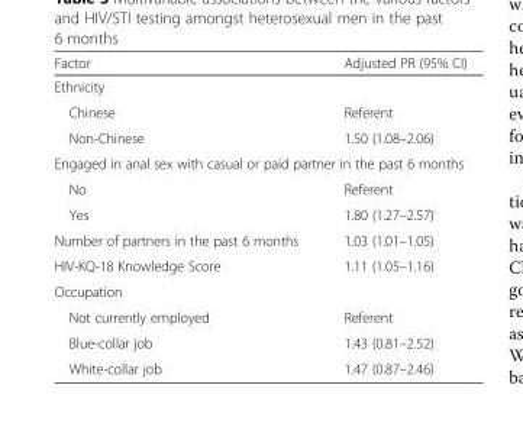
<table><thead><tr><td>Factor</td><td>Adjusted PR (95% CI)</td></tr></thead><tbody><tr><td colspan="2">Ethnicity</td></tr><tr><td>Chinese</td><td>Referent</td></tr><tr><td>Non-Chinese</td><td>1.50 (1.08–2.06)</td></tr><tr><td colspan="2">Engaged in anal sex with casual or paid partner in the past 6 months</td></tr><tr><td>No</td><td>Referent</td></tr><tr><td>Yes</td><td>1.80 (1.27–2.57)</td></tr><tr><td>Number of partners in the past 6 months</td><td>1.03 (1.01–1.05)</td></tr><tr><td>HIV-KQ-18 Knowledge Score</td><td>1.11 (1.05–1.16)</td></tr><tr><td colspan="2">Occupation</td></tr><tr><td>Not currently employed</td><td>Referent</td></tr><tr><td>Blue-collar job</td><td>1.43 (0.81–2.52)</td></tr><tr><td>White-collar job</td><td>1.47 (0.87–2.46)</td></tr></tbody></table>